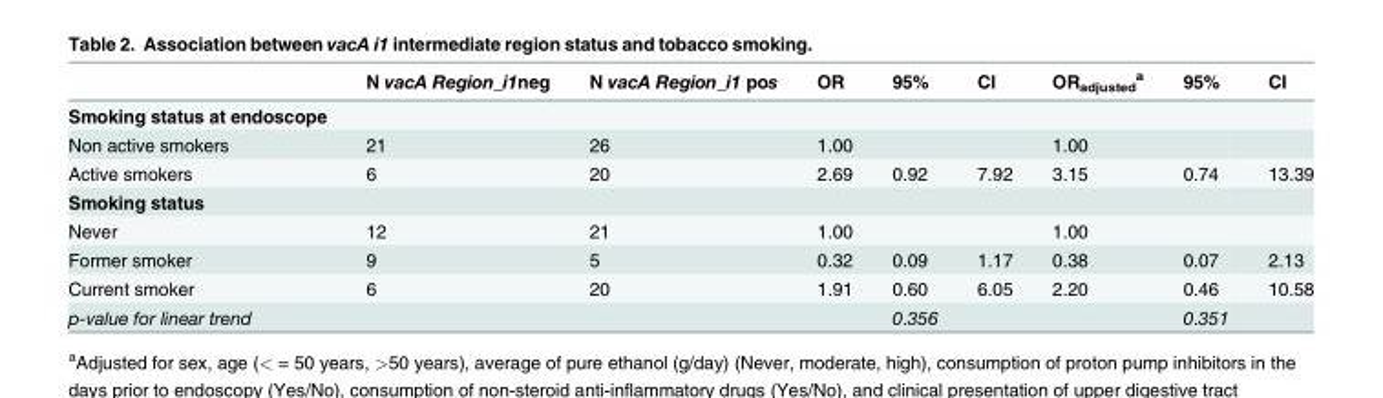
<table><thead><tr><td></td><td>N vacA Region_i1neg</td><td>N vacA Region_i1 pos</td><td>OR</td><td>95%</td><td>CI</td><td>OR<sub>adjusted</sub> <sup>a</sup></td><td>95%</td><td>CI</td></tr></thead><tbody><tr><td colspan="9">Smoking status at endoscope</td></tr><tr><td>Non active smokers</td><td>21</td><td>26</td><td>1.00</td><td></td><td></td><td>1.00</td><td></td><td></td></tr><tr><td>Active smokers</td><td>6</td><td>20</td><td>2.69</td><td>0.92</td><td>7.92</td><td>3.15</td><td>0.74</td><td>13.39</td></tr><tr><td colspan="9">Smoking status</td></tr><tr><td>Never</td><td>12</td><td>21</td><td>1.00</td><td></td><td></td><td>1.00</td><td></td><td></td></tr><tr><td>Former smoker</td><td>9</td><td>5</td><td>0.32</td><td>0.09</td><td>1.17</td><td>0.38</td><td>0.07</td><td>2.13</td></tr><tr><td>Current smoker</td><td>6</td><td>20</td><td>1.91</td><td>0.60</td><td>6.05</td><td>2.20</td><td>0.46</td><td>10.58</td></tr><tr><td>p-value for linear trend</td><td></td><td></td><td></td><td>0.356</td><td></td><td></td><td>0.351</td><td></td></tr></tbody></table>